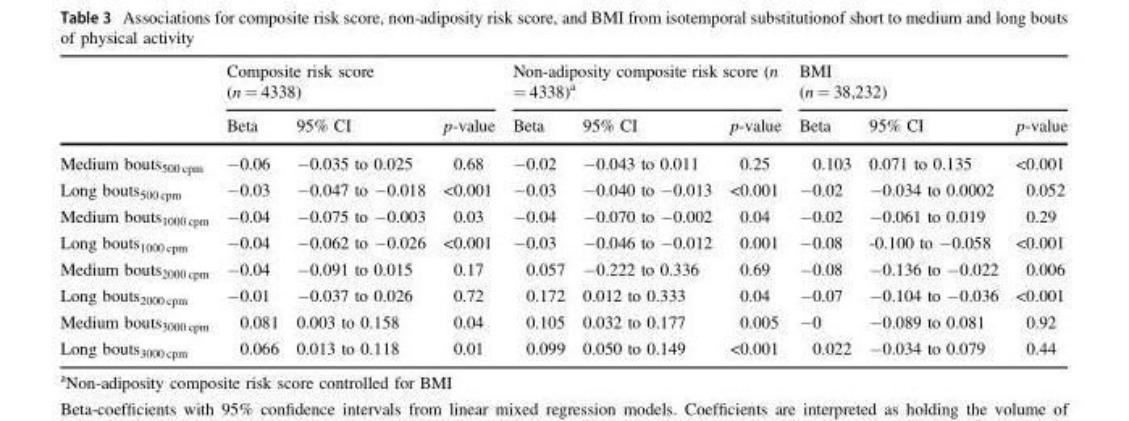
<table><thead><tr><td rowspan="2"></td><td colspan="3">Composite risk score (n = 4338)</td><td colspan="3">Non-adiposity composite risk score (n = 4338)<sup>a</sup></td><td colspan="3">BMI (n = 38,232)</td></tr><tr><td>Beta</td><td>95% CI</td><td>p-value</td><td>Beta</td><td>95% CI</td><td>p-value</td><td>Beta</td><td>95% CI</td><td>p-value</td></tr></thead><tbody><tr><td>Medium bouts<sub>500 cpm</sub></td><td>−0.06</td><td>−0.035 to 0.025</td><td>0.68</td><td>−0.02</td><td>−0.043 to 0.011</td><td>0.25</td><td>0.103</td><td>0.071 to 0.135</td><td>&lt;0.001</td></tr><tr><td>Long bouts<sub>500 cpm</sub></td><td>−0.03</td><td>−0.047 to −0.018</td><td>&lt;0.001</td><td>−0.03</td><td>−0.040 to −0.013</td><td>&lt;0.001</td><td>−0.02</td><td>−0.034 to 0.0002</td><td>0.052</td></tr><tr><td>Medium bouts<sub>1000 cpm</sub></td><td>−0.04</td><td>−0.075 to −0.003</td><td>0.03</td><td>−0.04</td><td>−0.070 to −0.002</td><td>0.04</td><td>−0.02</td><td>−0.061 to 0.019</td><td>0.29</td></tr><tr><td>Long bouts<sub>1000 cpm</sub></td><td>−0.04</td><td>−0.062 to −0.026</td><td>&lt;0.001</td><td>−0.03</td><td>−0.046 to −0.012</td><td>0.001</td><td>−0.08</td><td>-0.100 to −0.058</td><td>&lt;0.001</td></tr><tr><td>Medium bouts<sub>2000 cpm</sub></td><td>−0.04</td><td>−0.091 to 0.015</td><td>0.17</td><td>0.057</td><td>−0.222 to 0.336</td><td>0.69</td><td>−0.08</td><td>−0.136 to −0.022</td><td>0.006</td></tr><tr><td>Long bouts<sub>2000 cpm</sub></td><td>−0.01</td><td>−0.037 to 0.026</td><td>0.72</td><td>0.172</td><td>0.012 to 0.333</td><td>0.04</td><td>−0.07</td><td>−0.104 to −0.036</td><td>&lt;0.001</td></tr><tr><td>Medium bouts<sub>3000 cpm</sub></td><td>0.081</td><td>0.003 to 0.158</td><td>0.04</td><td>0.105</td><td>0.032 to 0.177</td><td>0.005</td><td>−0</td><td>−0.089 to 0.081</td><td>0.92</td></tr><tr><td>Long bouts<sub>3000 cpm</sub></td><td>0.066</td><td>0.013 to 0.118</td><td>0.01</td><td>0.099</td><td>0.050 to 0.149</td><td>&lt;0.001</td><td>0.022</td><td>−0.034 to 0.079</td><td>0.44</td></tr></tbody></table>